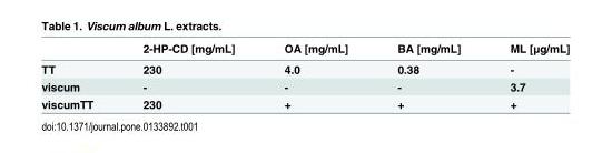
<table><thead><tr><td></td><td>2-HP-CD [mg/mL]</td><td>OA [mg/mL]</td><td>BA [mg/mL]</td><td>ML [μg/mL]</td></tr></thead><tbody><tr><td>TT</td><td>230</td><td>4.0</td><td>0.38</td><td>-</td></tr><tr><td>viscum</td><td>-</td><td>-</td><td>-</td><td>3.7</td></tr><tr><td>viscumTT</td><td>230</td><td>+</td><td>+</td><td>+</td></tr></tbody></table>